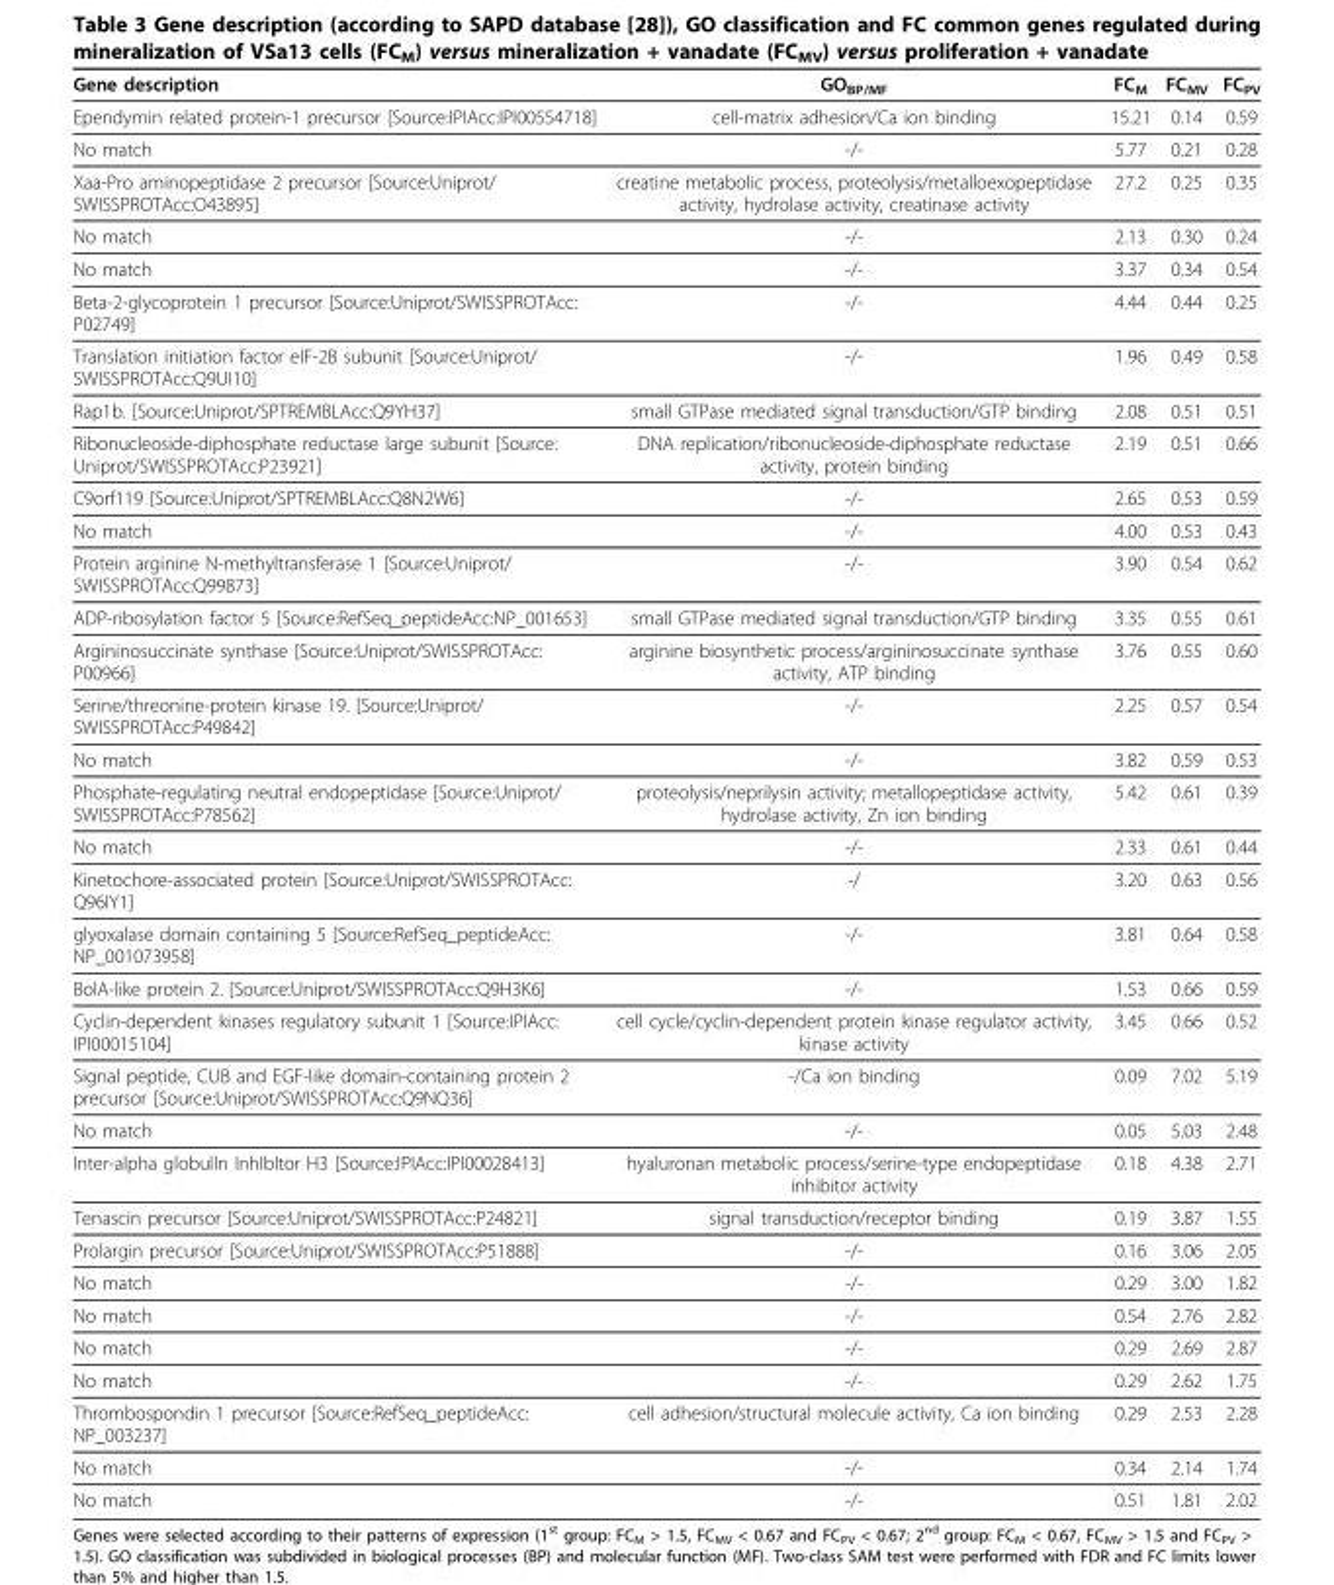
<table><thead><tr><td>Gene description</td><td>GO<sub>BP/MF</sub></td><td>FC<sub>M</sub></td><td>FC<sub>MV</sub></td><td>FC<sub>PV</sub></td></tr></thead><tbody><tr><td>Ependymin related protein-1 precursor [Source:IPIAcc:IPI00554718]</td><td>cell-matrix adhesion/Ca ion binding</td><td>15.21</td><td>0.14</td><td>0.59</td></tr><tr><td>No match</td><td>-/-</td><td>5.77</td><td>0.21</td><td>0.28</td></tr><tr><td>Xaa-Pro aminopeptidase 2 precursor [Source:Uniprot/ SWISSPROTAcc:O43895]</td><td>creatine metabolic process, proteolysis/metalloexopeptidase activity, hydrolase activity, creatinase activity</td><td>27.2</td><td>0.25</td><td>0.35</td></tr><tr><td>No match</td><td>-/-</td><td>2.13</td><td>0.30</td><td>0.24</td></tr><tr><td>No match</td><td>-/-</td><td>3.37</td><td>0.34</td><td>0.54</td></tr><tr><td>Beta-2-glycoprotein 1 precursor [Source:Uniprot/SWISSPROTAcc: P02749]</td><td>-/-</td><td>4.44</td><td>0.44</td><td>0.25</td></tr><tr><td>Translation initiation factor eIF-2B subunit [Source:Uniprot/ SWISSPROTAcc:Q9UI10]</td><td>-/-</td><td>1.96</td><td>0.49</td><td>0.58</td></tr><tr><td>Rap1b. [Source:Uniprot/SPTREMBLAcc:Q9YH37]</td><td>small GTPase mediated signal transduction/GTP binding</td><td>2.08</td><td>0.51</td><td>0.51</td></tr><tr><td>Ribonucleoside-diphosphate reductase large subunit [Source: Uniprot/SWISSPROTAcc:P23921]</td><td>DNA replication/ribonucleoside-diphosphate reductase activity, protein binding</td><td>2.19</td><td>0.51</td><td>0.66</td></tr><tr><td>C9orf119 [Source:Uniprot/SPTREMBLAcc:Q8N2W6]</td><td>-/-</td><td>2.65</td><td>0.53</td><td>0.59</td></tr><tr><td>No match</td><td>-/-</td><td>4.00</td><td>0.53</td><td>0.43</td></tr><tr><td>Protein arginine N-methyltransferase 1 [Source:Uniprot/ SWISSPROTAcc:Q99873]</td><td>-/-</td><td>3.90</td><td>0.54</td><td>0.62</td></tr><tr><td>ADP-ribosylation factor 5 [Source:RefSeq_peptideAcc:NP_001653]</td><td>small GTPase mediated signal transduction/GTP binding</td><td>3.35</td><td>0.55</td><td>0.61</td></tr><tr><td>Argininosuccinate synthase [Source:Uniprot/SWISSPROTAcc: P00966]</td><td>arginine biosynthetic process/argininosuccinate synthase activity, ATP binding</td><td>3.76</td><td>0.55</td><td>0.60</td></tr><tr><td>Serine/threonine-protein kinase 19. [Source:Uniprot/ SWISSPROTAcc:P49842]</td><td>-/-</td><td>2.25</td><td>0.57</td><td>0.54</td></tr><tr><td>No match</td><td>-/-</td><td>3.82</td><td>0.59</td><td>0.53</td></tr><tr><td>Phosphate-regulating neutral endopeptidase [Source:Uniprot/ SWISSPROTAcc:P78562]</td><td>proteolysis/neprilysin activity; metallopeptidase activity, hydrolase activity, Zn ion binding</td><td>5.42</td><td>0.61</td><td>0.39</td></tr><tr><td>No match</td><td>-/-</td><td>2.33</td><td>0.61</td><td>0.44</td></tr><tr><td>Kinetochore-associated protein [Source:Uniprot/SWISSPROTAcc: Q96IY1]</td><td>-/</td><td>3.20</td><td>0.63</td><td>0.56</td></tr><tr><td>glyoxalase domain containing 5 [Source:RefSeq_peptideAcc: NP_001073958]</td><td>-/-</td><td>3.81</td><td>0.64</td><td>0.58</td></tr><tr><td>BolA-like protein 2. [Source:Uniprot/SWISSPROTAcc:Q9H3K6]</td><td>-/-</td><td>1.53</td><td>0.66</td><td>0.59</td></tr><tr><td>Cyclin-dependent kinases regulatory subunit 1 [Source:IPIAcc: IPI00015104]</td><td>cell cycle/cyclin-dependent protein kinase regulator activity, kinase activity</td><td>3.45</td><td>0.66</td><td>0.52</td></tr><tr><td>Signal peptide, CUB and EGF-like domain-containing protein 2 precursor [Source:Uniprot/SWISSPROTAcc:Q9NQ36]</td><td>-/Ca ion binding</td><td>0.09</td><td>7.02</td><td>5.19</td></tr><tr><td>No match</td><td>-/-</td><td>0.05</td><td>5.03</td><td>2.48</td></tr><tr><td>Inter-alpha globulIn InhIbItor H3 [Source:IPIAcc:IPI00028413]</td><td>hyaluronan metabolic process/serine-type endopeptidase inhibitor activity</td><td>0.18</td><td>4.38</td><td>2.71</td></tr><tr><td>Tenascin precursor [Source:Uniprot/SWISSPROTAcc:P24821]</td><td>signal transduction/receptor binding</td><td>0.19</td><td>3.87</td><td>1.55</td></tr><tr><td>Prolargin precursor [Source:Uniprot/SWISSPROTAcc:P51888]</td><td>-/-</td><td>0.16</td><td>3.06</td><td>2.05</td></tr><tr><td>No match</td><td>-/-</td><td>0.29</td><td>3.00</td><td>1.82</td></tr><tr><td>No match</td><td>-/-</td><td>0.54</td><td>2.76</td><td>2.82</td></tr><tr><td>No match</td><td>-/-</td><td>0.29</td><td>2.69</td><td>2.87</td></tr><tr><td>No match</td><td>-/-</td><td>0.29</td><td>2.62</td><td>1.75</td></tr><tr><td>Thrombospondin 1 precursor [Source:RefSeq_peptideAcc: NP_003237]</td><td>cell adhesion/structural molecule activity, Ca ion binding</td><td>0.29</td><td>2.53</td><td>2.28</td></tr><tr><td>No match</td><td>-/-</td><td>0.34</td><td>2.14</td><td>1.74</td></tr><tr><td>No match</td><td>-/-</td><td>0.51</td><td>1.81</td><td>2.02</td></tr></tbody></table>